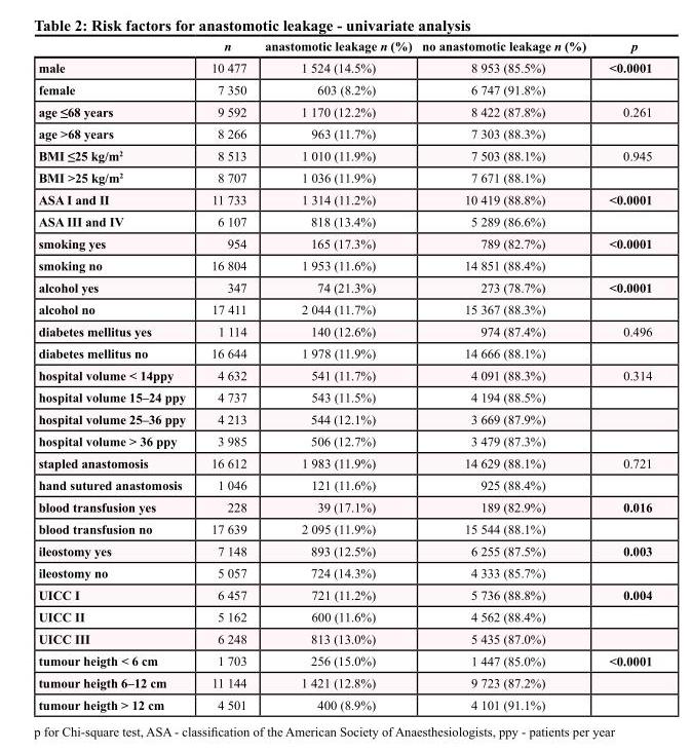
<table><thead><tr><td></td><td>n</td><td>anastomotic leakage n (%)</td><td>no anastomotic leakage n (%)</td><td>p</td></tr></thead><tbody><tr><td>male</td><td>10 477</td><td>1 524 (14.5%)</td><td>8 953 (85.5%)</td><td>&lt;0.0001</td></tr><tr><td>female</td><td>7 350</td><td>603 (8.2%)</td><td>6 747 (91.8%)</td><td></td></tr><tr><td>age ≤68 years</td><td>9 592</td><td>1 170 (12.2%)</td><td>8 422 (87.8%)</td><td>0.261</td></tr><tr><td>age &gt;68 years</td><td>8 266</td><td>963 (11.7%)</td><td>7 303 (88.3%)</td><td></td></tr><tr><td>BMI ≤25 kg/m<sup>2</sup></td><td>8 513</td><td>1 010 (11.9%)</td><td>7 503 (88.1%)</td><td>0.945</td></tr><tr><td>BMI &gt;25 kg/m<sup>2</sup></td><td>8 707</td><td>1 036 (11.9%)</td><td>7 671 (88.1%)</td><td></td></tr><tr><td>ASA I and II</td><td>11 733</td><td>1 314 (11.2%)</td><td>10 419 (88.8%)</td><td>&lt;0.0001</td></tr><tr><td>ASA III and IV</td><td>6 107</td><td>818 (13.4%)</td><td>5 289 (86.6%)</td><td></td></tr><tr><td>smoking yes</td><td>954</td><td>165 (17.3%)</td><td>789 (82.7%)</td><td>&lt;0.0001</td></tr><tr><td>smoking no</td><td>16 804</td><td>1 953 (11.6%)</td><td>14 851 (88.4%)</td><td></td></tr><tr><td>alcohol yes</td><td>347</td><td>74 (21.3%)</td><td>273 (78.7%)</td><td>&lt;0.0001</td></tr><tr><td>alcohol no</td><td>17 411</td><td>2 044 (11.7%)</td><td>15 367 (88.3%)</td><td></td></tr><tr><td>diabetes mellitus yes</td><td>1 114</td><td>140 (12.6%)</td><td>974 (87.4%)</td><td>0.496</td></tr><tr><td>diabetes mellitus no</td><td>16 644</td><td>1 978 (11.9%)</td><td>14 666 (88.1%)</td><td></td></tr><tr><td>hospital volume &lt; 14ppy</td><td>4 632</td><td>541 (11.7%)</td><td>4 091 (88.3%)</td><td>0.314</td></tr><tr><td>hospital volume 15–24 ppy</td><td>4 737</td><td>543 (11.5%)</td><td>4 194 (88.5%)</td><td></td></tr><tr><td>hospital volume 25–36 ppy</td><td>4 213</td><td>544 (12.1%)</td><td>3 669 (87.9%)</td><td></td></tr><tr><td>hospital volume &gt; 36 ppy</td><td>3 985</td><td>506 (12.7%)</td><td>3 479 (87.3%)</td><td></td></tr><tr><td>stapled anastomosis</td><td>16 612</td><td>1 983 (11.9%)</td><td>14 629 (88.1%)</td><td>0.721</td></tr><tr><td>hand sutured anastomosis</td><td>1 046</td><td>121 (11.6%)</td><td>925 (88.4%)</td><td></td></tr><tr><td>blood transfusion yes</td><td>228</td><td>39 (17.1%)</td><td>189 (82.9%)</td><td>0.016</td></tr><tr><td>blood transfusion no</td><td>17 639</td><td>2 095 (11.9%)</td><td>15 544 (88.1%)</td><td></td></tr><tr><td>ileostomy yes</td><td>7 148</td><td>893 (12.5%)</td><td>6 255 (87.5%)</td><td>0.003</td></tr><tr><td>ileostomy no</td><td>5 057</td><td>724 (14.3%)</td><td>4 333 (85.7%)</td><td></td></tr><tr><td>UICC I</td><td>6 457</td><td>721 (11.2%)</td><td>5 736 (88.8%)</td><td>0.004</td></tr><tr><td>UICC II</td><td>5 162</td><td>600 (11.6%)</td><td>4 562 (88.4%)</td><td></td></tr><tr><td>UICC III</td><td>6 248</td><td>813 (13.0%)</td><td>5 435 (87.0%)</td><td></td></tr><tr><td>tumour heigth &lt; 6 cm</td><td>1 703</td><td>256 (15.0%)</td><td>1 447 (85.0%)</td><td>&lt;0.0001</td></tr><tr><td>tumour heigth 6–12 cm</td><td>11 144</td><td>1 421 (12.8%)</td><td>9 723 (87.2%)</td><td></td></tr><tr><td>tumour heigth &gt; 12 cm</td><td>4 501</td><td>400 (8.9%)</td><td>4 101 (91.1%)</td><td></td></tr></tbody></table>